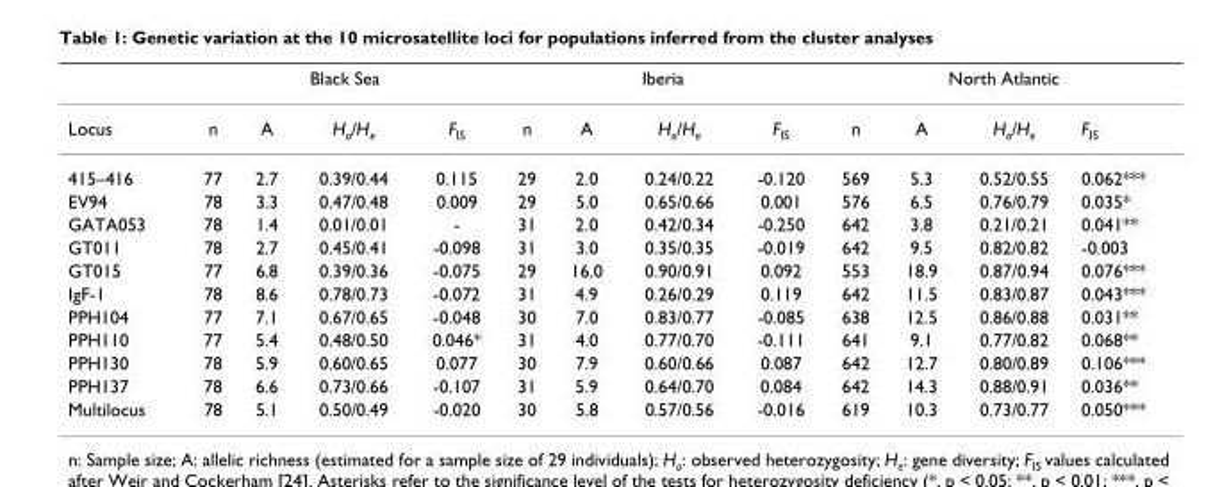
<table><thead><tr><td rowspan="2">Locus</td><td colspan="4">Black Sea</td><td colspan="4">Iberia</td><td colspan="4">North Atlantic</td></tr><tr><td>n</td><td>A</td><td>H<sub>o</sub>/H<sub>e</sub></td><td>F<sub>IS</sub></td><td>n</td><td>A</td><td>H<sub>o</sub>/H<sub>e</sub></td><td>F<sub>IS</sub></td><td>n</td><td>A</td><td>H<sub>o</sub>/H<sub>e</sub></td><td>F<sub>IS</sub></td></tr></thead><tbody><tr><td>415–416</td><td>77</td><td>2.7</td><td>0.39/0.44</td><td>0.115</td><td>29</td><td>2.0</td><td>0.24/0.22</td><td>-0.120</td><td>569</td><td>5.3</td><td>0.52/0.55</td><td>0.062***</td></tr><tr><td>EV94</td><td>78</td><td>3.3</td><td>0.47/0.48</td><td>0.009</td><td>29</td><td>5.0</td><td>0.65/0.66</td><td>0.001</td><td>576</td><td>6.5</td><td>0.76/0.79</td><td>0.035*</td></tr><tr><td>GATA053</td><td>78</td><td>1.4</td><td>0.01/0.01</td><td>-</td><td>31</td><td>2.0</td><td>0.42/0.34</td><td>-0.250</td><td>642</td><td>3.8</td><td>0.21/0.21</td><td>0.041**</td></tr><tr><td>GT011</td><td>78</td><td>2.7</td><td>0.45/0.41</td><td>-0.098</td><td>31</td><td>3.0</td><td>0.35/0.35</td><td>-0.019</td><td>642</td><td>9.5</td><td>0.82/0.82</td><td>-0.003</td></tr><tr><td>GT015</td><td>77</td><td>6.8</td><td>0.39/0.36</td><td>-0.075</td><td>29</td><td>16.0</td><td>0.90/0.91</td><td>0.092</td><td>553</td><td>18.9</td><td>0.87/0.94</td><td>0.076***</td></tr><tr><td>IgF-1</td><td>78</td><td>8.6</td><td>0.78/0.73</td><td>-0.072</td><td>31</td><td>4.9</td><td>0.26/0.29</td><td>0.119</td><td>642</td><td>11.5</td><td>0.83/0.87</td><td>0.043***</td></tr><tr><td>PPH104</td><td>77</td><td>7.1</td><td>0.67/0.65</td><td>-0.048</td><td>30</td><td>7.0</td><td>0.83/0.77</td><td>-0.085</td><td>638</td><td>12.5</td><td>0.86/0.88</td><td>0.031**</td></tr><tr><td>PPH110</td><td>77</td><td>5.4</td><td>0.48/0.50</td><td>0.046*</td><td>31</td><td>4.0</td><td>0.77/0.70</td><td>-0.111</td><td>641</td><td>9.1</td><td>0.77/0.82</td><td>0.068**</td></tr><tr><td>PPH130</td><td>78</td><td>5.9</td><td>0.60/0.65</td><td>0.077</td><td>30</td><td>7.9</td><td>0.60/0.66</td><td>0.087</td><td>642</td><td>12.7</td><td>0.80/0.89</td><td>0.106***</td></tr><tr><td>PPH137</td><td>78</td><td>6.6</td><td>0.73/0.66</td><td>-0.107</td><td>31</td><td>5.9</td><td>0.64/0.70</td><td>0.084</td><td>642</td><td>14.3</td><td>0.88/0.91</td><td>0.036**</td></tr><tr><td>Multilocus</td><td>78</td><td>5.1</td><td>0.50/0.49</td><td>-0.020</td><td>30</td><td>5.8</td><td>0.57/0.56</td><td>-0.016</td><td>619</td><td>10.3</td><td>0.73/0.77</td><td>0.050***</td></tr></tbody></table>